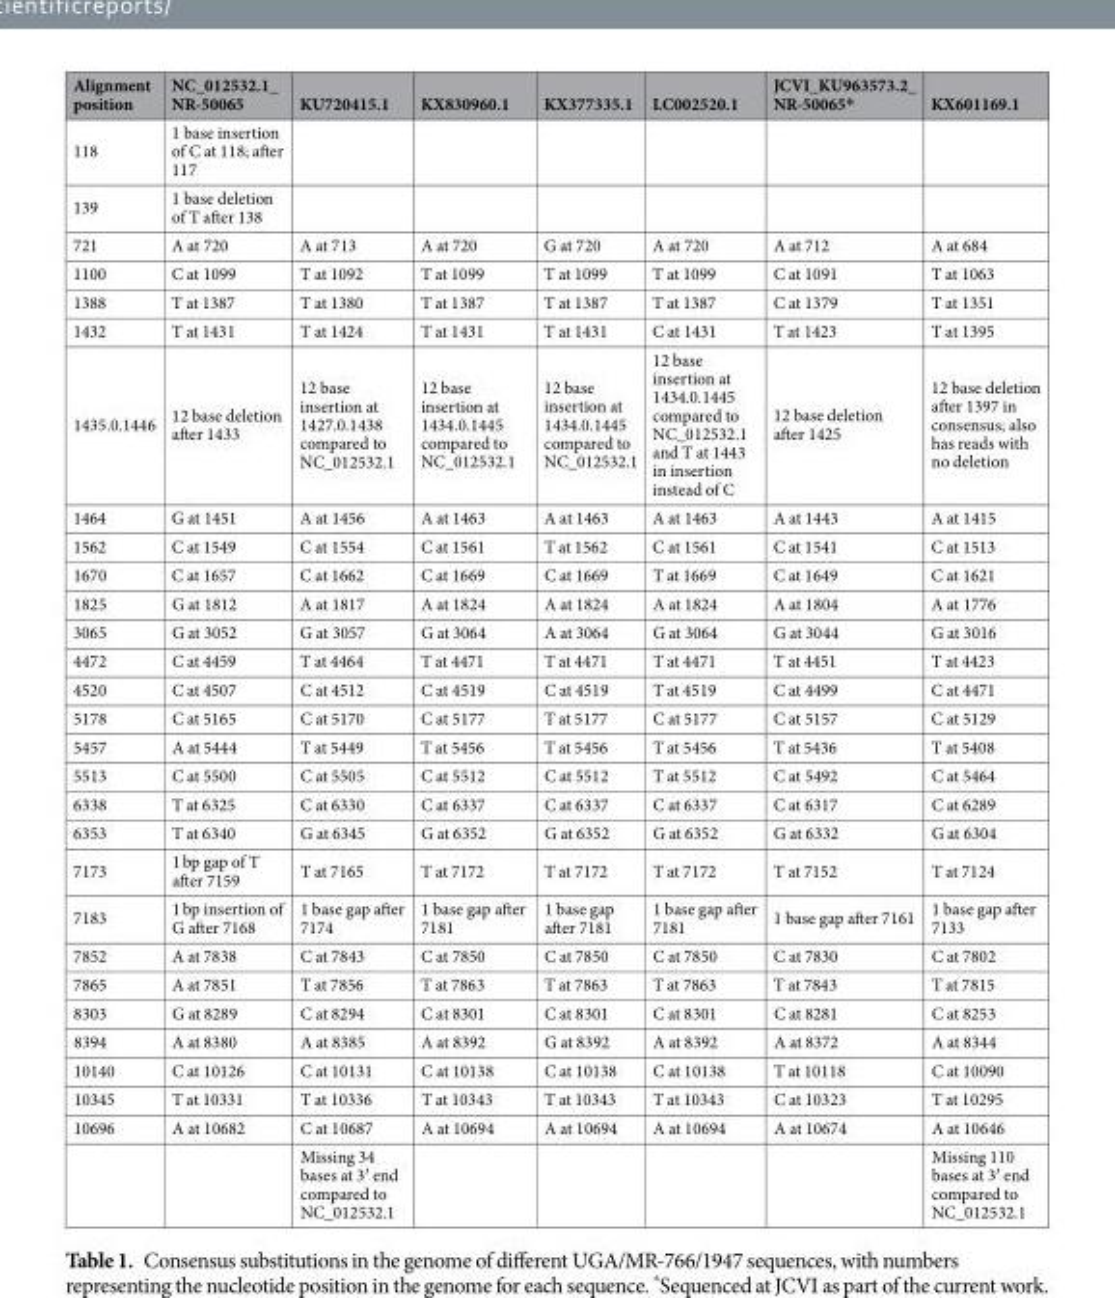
<table><thead><tr><td>Alignment position</td><td>NC_012532.1_ NR-50065</td><td>KU720415.1</td><td>KX830960.1</td><td>KX377335.1</td><td>LC002520.1</td><td>JCVI_KU963573.2_ NR-50065*</td><td>KX601169.1</td></tr></thead><tbody><tr><td>118</td><td>1 base insertion of C at 118; after 117</td><td></td><td></td><td></td><td></td><td></td><td></td></tr><tr><td>139</td><td>1 base deletion of T after 138</td><td></td><td></td><td></td><td></td><td></td><td></td></tr><tr><td>721</td><td>A at 720</td><td>A at 713</td><td>A at 720</td><td>G at 720</td><td>A at 720</td><td>A at 712</td><td>A at 684</td></tr><tr><td>1100</td><td>C at 1099</td><td>T at 1092</td><td>T at 1099</td><td>T at 1099</td><td>T at 1099</td><td>C at 1091</td><td>T at 1063</td></tr><tr><td>1388</td><td>T at 1387</td><td>T at 1380</td><td>T at 1387</td><td>T at 1387</td><td>T at 1387</td><td>C at 1379</td><td>T at 1351</td></tr><tr><td>1432</td><td>T at 1431</td><td>T at 1424</td><td>T at 1431</td><td>T at 1431</td><td>C at 1431</td><td>T at 1423</td><td>T at 1395</td></tr><tr><td>1435.0.1446</td><td>12 base deletion after 1433</td><td>12 base insertion at 1427.0.1438 compared to NC_012532.1</td><td>12 base insertion at 1434.0.1445 compared to NC_012532.1</td><td>12 base insertion at 1434.0.1445 compared to NC_012532.1</td><td>12 base insertion at 1434.0.1445 compared to NC_012532.1 and T at 1443 in insertion instead of C</td><td>12 base deletion after 1425</td><td>12 base deletion after 1397 in consensus; also has reads with no deletion</td></tr><tr><td>1464</td><td>G at 1451</td><td>A at 1456</td><td>A at 1463</td><td>A at 1463</td><td>A at 1463</td><td>A at 1443</td><td>A at 1415</td></tr><tr><td>1562</td><td>C at 1549</td><td>C at 1554</td><td>C at 1561</td><td>T at 1562</td><td>C at 1561</td><td>C at 1541</td><td>C at 1513</td></tr><tr><td>1670</td><td>C at 1657</td><td>C at 1662</td><td>C at 1669</td><td>C at 1669</td><td>T at 1669</td><td>C at 1649</td><td>C at 1621</td></tr><tr><td>1825</td><td>G at 1812</td><td>A at 1817</td><td>A at 1824</td><td>A at 1824</td><td>A at 1824</td><td>A at 1804</td><td>A at 1776</td></tr><tr><td>3065</td><td>G at 3052</td><td>G at 3057</td><td>G at 3064</td><td>A at 3064</td><td>G at 3064</td><td>G at 3044</td><td>G at 3016</td></tr><tr><td>4472</td><td>C at 4459</td><td>T at 4464</td><td>T at 4471</td><td>T at 4471</td><td>T at 4471</td><td>T at 4451</td><td>T at 4423</td></tr><tr><td>4520</td><td>C at 4507</td><td>C at 4512</td><td>C at 4519</td><td>C at 4519</td><td>T at 4519</td><td>C at 4499</td><td>C at 4471</td></tr><tr><td>5178</td><td>C at 5165</td><td>C at 5170</td><td>C at 5177</td><td>T at 5177</td><td>C at 5177</td><td>C at 5157</td><td>C at 5129</td></tr><tr><td>5457</td><td>A at 5444</td><td>T at 5449</td><td>T at 5456</td><td>T at 5456</td><td>T at 5456</td><td>T at 5436</td><td>T at 5408</td></tr><tr><td>5513</td><td>C at 5500</td><td>C at 5505</td><td>C at 5512</td><td>C at 5512</td><td>T at 5512</td><td>C at 5492</td><td>C at 5464</td></tr><tr><td>6338</td><td>T at 6325</td><td>C at 6330</td><td>C at 6337</td><td>C at 6337</td><td>C at 6337</td><td>C at 6317</td><td>C at 6289</td></tr><tr><td>6353</td><td>T at 6340</td><td>G at 6345</td><td>G at 6352</td><td>G at 6352</td><td>G at 6352</td><td>G at 6332</td><td>G at 6304</td></tr><tr><td>7173</td><td>1 bp gap of T after 7159</td><td>T at 7165</td><td>T at 7172</td><td>T at 7172</td><td>T at 7172</td><td>T at 7152</td><td>T at 7124</td></tr><tr><td>7183</td><td>1 bp insertion of G after 7168</td><td>1 base gap after 7174</td><td>1 base gap after 7181</td><td>1 base gap after 7181</td><td>1 base gap after 7181</td><td>1 base gap after 7161</td><td>1 base gap after 7133</td></tr><tr><td>7852</td><td>A at 7838</td><td>C at 7843</td><td>C at 7850</td><td>C at 7850</td><td>C at 7850</td><td>C at 7830</td><td>C at 7802</td></tr><tr><td>7865</td><td>A at 7851</td><td>T at 7856</td><td>T at 7863</td><td>T at 7863</td><td>T at 7863</td><td>T at 7843</td><td>T at 7815</td></tr><tr><td>8303</td><td>G at 8289</td><td>C at 8294</td><td>C at 8301</td><td>C at 8301</td><td>C at 8301</td><td>C at 8281</td><td>C at 8253</td></tr><tr><td>8394</td><td>A at 8380</td><td>A at 8385</td><td>A at 8392</td><td>G at 8392</td><td>A at 8392</td><td>A at 8372</td><td>A at 8344</td></tr><tr><td>10140</td><td>C at 10126</td><td>C at 10131</td><td>C at 10138</td><td>C at 10138</td><td>C at 10138</td><td>T at 10118</td><td>C at 10090</td></tr><tr><td>10345</td><td>T at 10331</td><td>T at 10336</td><td>T at 10343</td><td>T at 10343</td><td>T at 10343</td><td>C at 10323</td><td>T at 10295</td></tr><tr><td rowspan="2">10696</td><td>A at 10682</td><td>C at 10687</td><td>A at 10694</td><td>A at 10694</td><td>A at 10694</td><td>A at 10674</td><td>A at 10646</td></tr><tr><td></td><td>Missing 34 bases at 3′ end compared to NC_012532.1</td><td></td><td></td><td></td><td></td><td>Missing 110 bases at 3′ end compared to NC_012532.1</td></tr></tbody></table>